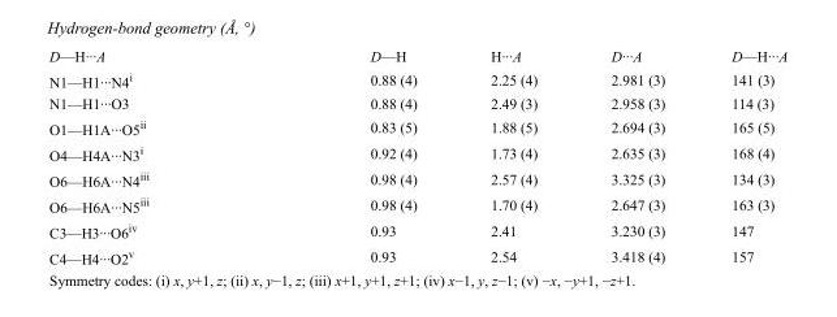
<table><tbody><tr><td>D—H···A</td><td>D—H</td><td>H···A</td><td>D···A</td><td>D—H···A</td></tr><tr><td>N1—H1···N4<sup>i</sup></td><td>0.88 (4)</td><td>2.25 (4)</td><td>2.981 (3)</td><td>141 (3)</td></tr><tr><td>N1—H1···O3</td><td>0.88 (4)</td><td>2.49 (3)</td><td>2.958 (3)</td><td>114 (3)</td></tr><tr><td>O1—H1A···O5<sup>ii</sup></td><td>0.83 (5)</td><td>1.88 (5)</td><td>2.694 (3)</td><td>165 (5)</td></tr><tr><td>O4—H4A···N3<sup>i</sup></td><td>0.92 (4)</td><td>1.73 (4)</td><td>2.635 (3)</td><td>168 (4)</td></tr><tr><td>O6—H6A···N4<sup>iii</sup></td><td>0.98 (4)</td><td>2.57 (4)</td><td>3.325 (3)</td><td>134 (3)</td></tr><tr><td>O6—H6A···N5<sup>iii</sup></td><td>0.98 (4)</td><td>1.70 (4)</td><td>2.647 (3)</td><td>163 (3)</td></tr><tr><td>C3—H3···O6<sup>iv</sup></td><td>0.93</td><td>2.41</td><td>3.230 (3)</td><td>147</td></tr><tr><td>C4—H4···O2<sup>v</sup></td><td>0.93</td><td>2.54</td><td>3.418 (4)</td><td>157</td></tr></tbody></table>